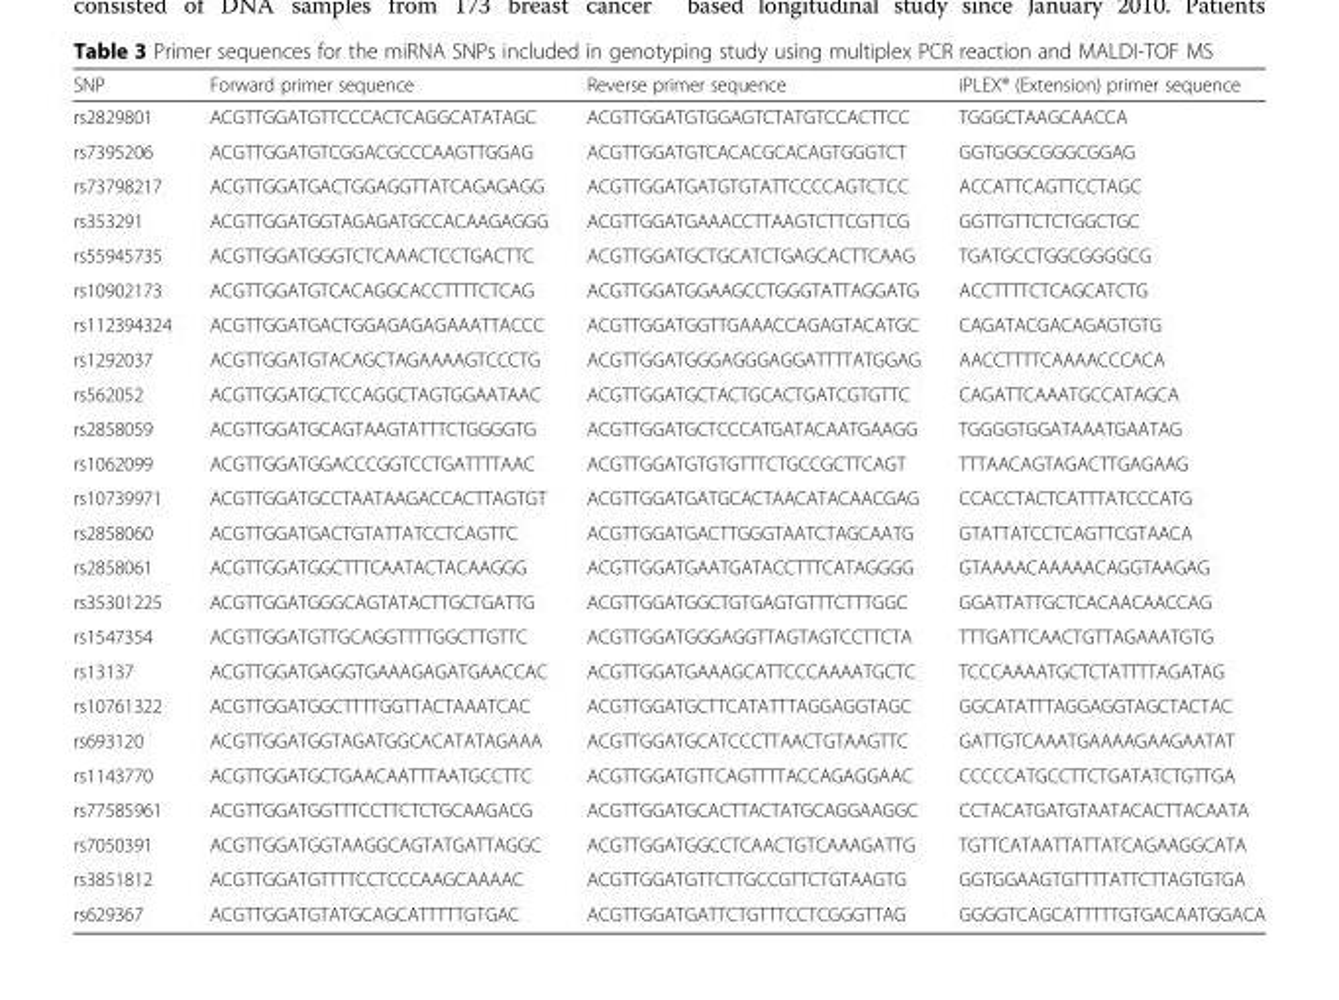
<table><thead><tr><td>SNP</td><td>Forward primer sequence</td><td>Reverse primer sequence</td><td>iPLEX® (Extension) primer sequence</td></tr></thead><tbody><tr><td>rs2829801</td><td>ACGTTGGATGTTCCCACTCAGGCATATAGC</td><td>ACGTTGGATGTGGAGTCTATGTCCACTTCC</td><td>TGGGCTAAGCAACCA</td></tr><tr><td>rs7395206</td><td>ACGTTGGATGTCGGACGCCCAAGTTGGAG</td><td>ACGTTGGATGTCACACGCACAGTGGGTCT</td><td>GGTGGGCGGGCGGAG</td></tr><tr><td>rs73798217</td><td>ACGTTGGATGACTGGAGGTTATCAGAGAGG</td><td>ACGTTGGATGATGTGTATTCCCCAGTCTCC</td><td>ACCATTCAGTTCCTAGC</td></tr><tr><td>rs353291</td><td>ACGTTGGATGGTAGAGATGCCACAAGAGGG</td><td>ACGTTGGATGAAACCTTAAGTCTTCGTTCG</td><td>GGTTGTTCTCTGGCTGC</td></tr><tr><td>rs55945735</td><td>ACGTTGGATGGGTCTCAAACTCCTGACTTC</td><td>ACGTTGGATGCTGCATCTGAGCACTTCAAG</td><td>TGATGCCTGGCGGGGCG</td></tr><tr><td>rs10902173</td><td>ACGTTGGATGTCACAGGCACCTTTTCTCAG</td><td>ACGTTGGATGGAAGCCTGGGTATTAGGATG</td><td>ACCTTTTCTCAGCATCTG</td></tr><tr><td>rs112394324</td><td>ACGTTGGATGACTGGAGAGAGAAATTACCC</td><td>ACGTTGGATGGTTGAAACCAGAGTACATGC</td><td>CAGATACGACAGAGTGTG</td></tr><tr><td>rs1292037</td><td>ACGTTGGATGTACAGCTAGAAAAGTCCCTG</td><td>ACGTTGGATGGGAGGGAGGATTTTATGGAG</td><td>AACCTTTTCAAAACCCACA</td></tr><tr><td>rs562052</td><td>ACGTTGGATGCTCCAGGCTAGTGGAATAAC</td><td>ACGTTGGATGCTACTGCACTGATCGTGTTC</td><td>CAGATTCAAATGCCATAGCA</td></tr><tr><td>rs2858059</td><td>ACGTTGGATGCAGTAAGTATTTCTGGGGTG</td><td>ACGTTGGATGCTCCCATGATACAATGAAGG</td><td>TGGGGTGGATAAATGAATAG</td></tr><tr><td>rs1062099</td><td>ACGTTGGATGGACCCGGTCCTGATTTTAAC</td><td>ACGTTGGATGTGTGTTTCTGCCGCTTCAGT</td><td>TTTAACAGTAGACTTGAGAAG</td></tr><tr><td>rs10739971</td><td>ACGTTGGATGCCTAATAAGACCACTTAGTGT</td><td>ACGTTGGATGATGCACTAACATACAACGAG</td><td>CCACCTACTCATTTATCCCATG</td></tr><tr><td>rs2858060</td><td>ACGTTGGATGACTGTATTATCCTCAGTTC</td><td>ACGTTGGATGACTTGGGTAATCTAGCAATG</td><td>GTATTATCCTCAGTTCGTAACA</td></tr><tr><td>rs2858061</td><td>ACGTTGGATGGCTTTCAATACTACAAGGG</td><td>ACGTTGGATGAATGATACCTTTCATAGGGG</td><td>GTAAAACAAAAACAGGTAAGAG</td></tr><tr><td>rs35301225</td><td>ACGTTGGATGGGCAGTATACTTGCTGATTG</td><td>ACGTTGGATGGCTGTGAGTGTTTCTTTGGC</td><td>GGATTATTGCTCACAACAACCAG</td></tr><tr><td>rs1547354</td><td>ACGTTGGATGTTGCAGGTTTTGGCTTGTTC</td><td>ACGTTGGATGGGAGGTTAGTAGTCCTTCTA</td><td>TTTGATTCAACTGTTAGAAATGTG</td></tr><tr><td>rs13137</td><td>ACGTTGGATGAGGTGAAAGAGATGAACCAC</td><td>ACGTTGGATGAAAGCATTCCCAAAATGCTC</td><td>TCCCAAAATGCTCTATTTTAGATAG</td></tr><tr><td>rs10761322</td><td>ACGTTGGATGGCTTTTGGTTACTAAATCAC</td><td>ACGTTGGATGCTTCATATTTAGGAGGTAGC</td><td>GGCATATTTAGGAGGTAGCTACTAC</td></tr><tr><td>rs693120</td><td>ACGTTGGATGGTAGATGGCACATATAGAAA</td><td>ACGTTGGATGCATCCCTTAACTGTAAGTTC</td><td>GATTGTCAAATGAAAAGAAGAATAT</td></tr><tr><td>rs1143770</td><td>ACGTTGGATGCTGAACAATTTAATGCCTTC</td><td>ACGTTGGATGTTCAGTTTTACCAGAGGAAC</td><td>CCCCCATGCCTTCTGATATCTGTTGA</td></tr><tr><td>rs77585961</td><td>ACGTTGGATGGTTTCCTTCTCTGCAAGACG</td><td>ACGTTGGATGCACTTACTATGCAGGAAGGC</td><td>CCTACATGATGTAATACACTTACAATA</td></tr><tr><td>rs7050391</td><td>ACGTTGGATGGTAAGGCAGTATGATTAGGC</td><td>ACGTTGGATGGCCTCAACTGTCAAAGATTG</td><td>TGTTCATAATTATTATCAGAAGGCATA</td></tr><tr><td>rs3851812</td><td>ACGTTGGATGTTTTCCTCCCAAGCAAAAC</td><td>ACGTTGGATGTTCTTGCCGTTCTGTAAGTG</td><td>GGTGGAAGTGTTTTATTCTTAGTGTGA</td></tr><tr><td>rs629367</td><td>ACGTTGGATGTATGCAGCATTTTTGTGAC</td><td>ACGTTGGATGATTCTGTTTCCTCGGGTTAG</td><td>GGGGTCAGCATTTTTGTGACAATGGACA</td></tr></tbody></table>